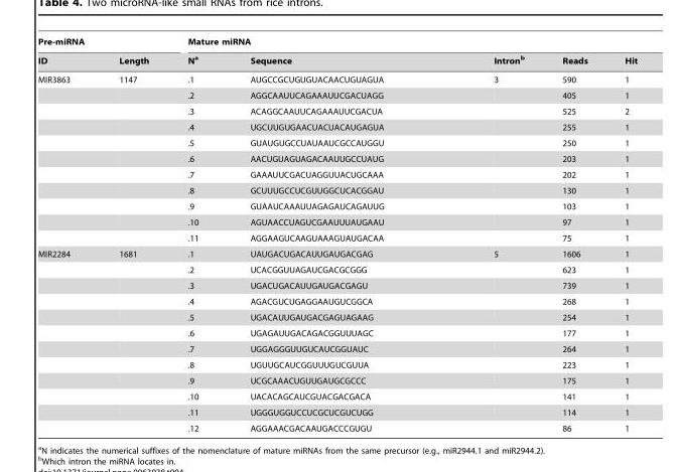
<table><thead><tr><td colspan="2">Pre-miRNA</td><td colspan="5">Mature miRNA</td></tr><tr><td>ID</td><td>Length</td><td>N<sup>a</sup></td><td>Sequence</td><td>Intron<sup>b</sup></td><td>Reads</td><td>Hit</td></tr></thead><tbody><tr><td rowspan="11">MIR3863</td><td>1147</td><td>.1</td><td>AUGCCGCUGUGUACAACUGUAGUA</td><td>3</td><td>590</td><td>1</td></tr><tr><td></td><td>.2</td><td>AGGCAAUUCAGAAAUUCGACUAGG</td><td></td><td>405</td><td>1</td></tr><tr><td></td><td>.3</td><td>ACAGGCAAUUCAGAAAUUCGACUA</td><td></td><td>525</td><td>2</td></tr><tr><td></td><td>.4</td><td>UGCUUGUGAACUACUACAUGAGUA</td><td></td><td>255</td><td>1</td></tr><tr><td></td><td>.5</td><td>GUAUGUGCCUAUAAUCGCCAUGGU</td><td></td><td>250</td><td>1</td></tr><tr><td></td><td>.6</td><td>AACUGUAGUAGACAAUUGCCUAUG</td><td></td><td>203</td><td>1</td></tr><tr><td></td><td>.7</td><td>GAAAUUCGACUAGGUUACUGCAAA</td><td></td><td>202</td><td>1</td></tr><tr><td></td><td>.8</td><td>GCUUUGCCUCGUUGGCUCACGGAU</td><td></td><td>130</td><td>1</td></tr><tr><td></td><td>.9</td><td>GUAAUCAAAUUAGAGAUCAGAUUG</td><td></td><td>103</td><td>1</td></tr><tr><td></td><td>.10</td><td>AGUAACCUAGUCGAAUUUAUGAAU</td><td></td><td>97</td><td>1</td></tr><tr><td></td><td>.11</td><td>AGGAAGUCAAGUAAAGUAUGACAA</td><td></td><td>75</td><td>1</td></tr><tr><td rowspan="12">MIR2284</td><td>1681</td><td>.1</td><td>UAUGACUGACAUUGAUGACGAG</td><td>5</td><td>1606</td><td>1</td></tr><tr><td></td><td>.2</td><td>UCACGGUUAGAUCGACGCGGG</td><td></td><td>623</td><td>1</td></tr><tr><td></td><td>.3</td><td>UGACUGACAUUGAUGACGAGU</td><td></td><td>739</td><td>1</td></tr><tr><td></td><td>.4</td><td>AGACGUCUGAGGAAUGUCGGCA</td><td></td><td>268</td><td>1</td></tr><tr><td></td><td>.5</td><td>UGACAUUGAUGACGAGUAGAAG</td><td></td><td>254</td><td>1</td></tr><tr><td></td><td>.6</td><td>UGAGAUUGACAGACGGUUUAGC</td><td></td><td>177</td><td>1</td></tr><tr><td></td><td>.7</td><td>UGGAGGGUUGUCAUCGGUAUC</td><td></td><td>264</td><td>1</td></tr><tr><td></td><td>.8</td><td>UGUUGCAUCGGUUUGUCGUUA</td><td></td><td>223</td><td>1</td></tr><tr><td></td><td>.9</td><td>UCGCAAACUGUUGAUGCGCCC</td><td></td><td>175</td><td>1</td></tr><tr><td></td><td>.10</td><td>UACACAGCAUCGUACGACGACA</td><td></td><td>141</td><td>1</td></tr><tr><td></td><td>.11</td><td>UGGGUGGUCCUCGCUCGUCUGG</td><td></td><td>114</td><td>1</td></tr><tr><td></td><td>.12</td><td>AGGAAACGACAAUGACCCGUGU</td><td></td><td>86</td><td>1</td></tr></tbody></table>